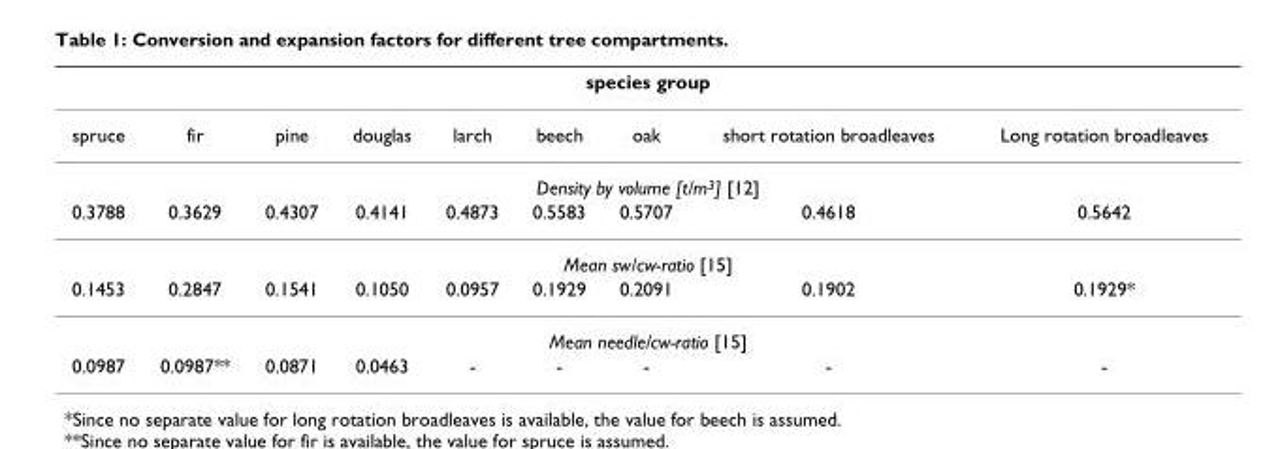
<table><thead><tr><td colspan="9">species group</td></tr><tr><td>spruce</td><td>fir</td><td>pine</td><td>douglas</td><td>larch</td><td>beech</td><td>oak</td><td>short rotation broadleaves</td><td>Long rotation broadleaves</td></tr></thead><tbody><tr><td colspan="9">Density by volume [t/m<sup>3</sup>] [12]</td></tr><tr><td>0.3788</td><td>0.3629</td><td>0.4307</td><td>0.4141</td><td>0.4873</td><td>0.5583</td><td>0.5707</td><td>0.4618</td><td>0.5642</td></tr><tr><td colspan="9">Mean sw/cw-ratio [15]</td></tr><tr><td>0.1453</td><td>0.2847</td><td>0.1541</td><td>0.1050</td><td>0.0957</td><td>0.1929</td><td>0.2091</td><td>0.1902</td><td>0.1929*</td></tr><tr><td colspan="9">Mean needle/cw-ratio [15]</td></tr><tr><td>0.0987</td><td>0.0987**</td><td>0.0871</td><td>0.0463</td><td>-</td><td>-</td><td>-</td><td>-</td><td>-</td></tr></tbody></table>